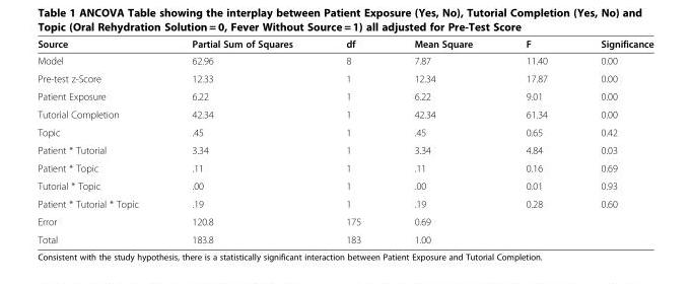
<table><thead><tr><td>Source</td><td>Partial Sum of Squares</td><td>df</td><td>Mean Square</td><td>F</td><td>Significance</td></tr></thead><tbody><tr><td>Model</td><td>62.96</td><td>8</td><td>7.87</td><td>11.40</td><td>0.00</td></tr><tr><td>Pre-test z-Score</td><td>12.33</td><td>1</td><td>12.34</td><td>17.87</td><td>0.00</td></tr><tr><td>Patient Exposure</td><td>6.22</td><td>1</td><td>6.22</td><td>9.01</td><td>0.00</td></tr><tr><td>Tutorial Completion</td><td>42.34</td><td>1</td><td>42.34</td><td>61.34</td><td>0.00</td></tr><tr><td>Topic</td><td>.45</td><td>1</td><td>.45</td><td>0.65</td><td>0.42</td></tr><tr><td>Patient * Tutorial</td><td>3.34</td><td>1</td><td>3.34</td><td>4.84</td><td>0.03</td></tr><tr><td>Patient * Topic</td><td>.11</td><td>1</td><td>.11</td><td>0.16</td><td>0.69</td></tr><tr><td>Tutorial * Topic</td><td>.00</td><td>1</td><td>.00</td><td>0.01</td><td>0.93</td></tr><tr><td>Patient * Tutorial * Topic</td><td>.19</td><td>1</td><td>.19</td><td>0.28</td><td>0.60</td></tr><tr><td>Error</td><td>120.8</td><td>175</td><td>0.69</td><td></td><td></td></tr><tr><td>Total</td><td>183.8</td><td>183</td><td>1.00</td><td></td><td></td></tr></tbody></table>